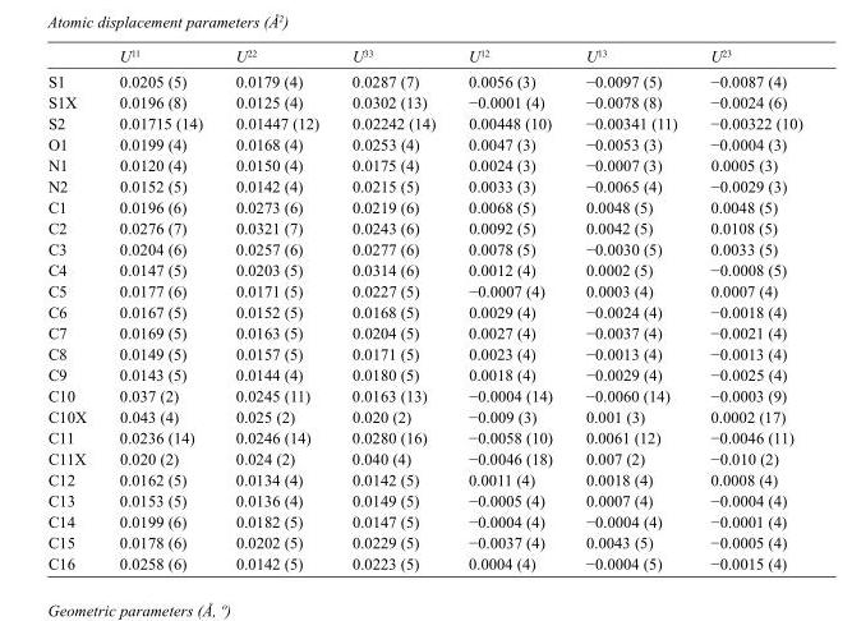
<table><thead><tr><td></td><td>U<sup>11</sup></td><td>U<sup>22</sup></td><td>U<sup>33</sup></td><td>U<sup>12</sup></td><td>U<sup>13</sup></td><td>U<sup>23</sup></td></tr></thead><tbody><tr><td>S1</td><td>0.0205 (5)</td><td>0.0179 (4)</td><td>0.0287 (7)</td><td>0.0056 (3)</td><td>−0.0097 (5)</td><td>−0.0087 (4)</td></tr><tr><td>S1X</td><td>0.0196 (8)</td><td>0.0125 (4)</td><td>0.0302 (13)</td><td>−0.0001 (4)</td><td>−0.0078 (8)</td><td>−0.0024 (6)</td></tr><tr><td>S2</td><td>0.01715 (14)</td><td>0.01447 (12)</td><td>0.02242 (14)</td><td>0.00448 (10)</td><td>−0.00341 (11)</td><td>−0.00322 (10)</td></tr><tr><td>O1</td><td>0.0199 (4)</td><td>0.0168 (4)</td><td>0.0253 (4)</td><td>0.0047 (3)</td><td>−0.0053 (3)</td><td>−0.0004 (3)</td></tr><tr><td>N1</td><td>0.0120 (4)</td><td>0.0150 (4)</td><td>0.0175 (4)</td><td>0.0024 (3)</td><td>−0.0007 (3)</td><td>0.0005 (3)</td></tr><tr><td>N2</td><td>0.0152 (5)</td><td>0.0142 (4)</td><td>0.0215 (5)</td><td>0.0033 (3)</td><td>−0.0065 (4)</td><td>−0.0029 (3)</td></tr><tr><td>C1</td><td>0.0196 (6)</td><td>0.0273 (6)</td><td>0.0219 (6)</td><td>0.0068 (5)</td><td>0.0048 (5)</td><td>0.0048 (5)</td></tr><tr><td>C2</td><td>0.0276 (7)</td><td>0.0321 (7)</td><td>0.0243 (6)</td><td>0.0092 (5)</td><td>0.0042 (5)</td><td>0.0108 (5)</td></tr><tr><td>C3</td><td>0.0204 (6)</td><td>0.0257 (6)</td><td>0.0277 (6)</td><td>0.0078 (5)</td><td>−0.0030 (5)</td><td>0.0033 (5)</td></tr><tr><td>C4</td><td>0.0147 (5)</td><td>0.0203 (5)</td><td>0.0314 (6)</td><td>0.0012 (4)</td><td>0.0002 (5)</td><td>−0.0008 (5)</td></tr><tr><td>C5</td><td>0.0177 (6)</td><td>0.0171 (5)</td><td>0.0227 (5)</td><td>−0.0007 (4)</td><td>0.0003 (4)</td><td>0.0007 (4)</td></tr><tr><td>C6</td><td>0.0167 (5)</td><td>0.0152 (5)</td><td>0.0168 (5)</td><td>0.0029 (4)</td><td>−0.0024 (4)</td><td>−0.0018 (4)</td></tr><tr><td>C7</td><td>0.0169 (5)</td><td>0.0163 (5)</td><td>0.0204 (5)</td><td>0.0027 (4)</td><td>−0.0037 (4)</td><td>−0.0021 (4)</td></tr><tr><td>C8</td><td>0.0149 (5)</td><td>0.0157 (5)</td><td>0.0171 (5)</td><td>0.0023 (4)</td><td>−0.0013 (4)</td><td>−0.0013 (4)</td></tr><tr><td>C9</td><td>0.0143 (5)</td><td>0.0144 (4)</td><td>0.0180 (5)</td><td>0.0018 (4)</td><td>−0.0029 (4)</td><td>−0.0025 (4)</td></tr><tr><td>C10</td><td>0.037 (2)</td><td>0.0245 (11)</td><td>0.0163 (13)</td><td>−0.0004 (14)</td><td>−0.0060 (14)</td><td>−0.0003 (9)</td></tr><tr><td>C10X</td><td>0.043 (4)</td><td>0.025 (2)</td><td>0.020 (2)</td><td>−0.009 (3)</td><td>0.001 (3)</td><td>0.0002 (17)</td></tr><tr><td>C11</td><td>0.0236 (14)</td><td>0.0246 (14)</td><td>0.0280 (16)</td><td>−0.0058 (10)</td><td>0.0061 (12)</td><td>−0.0046 (11)</td></tr><tr><td>C11X</td><td>0.020 (2)</td><td>0.024 (2)</td><td>0.040 (4)</td><td>−0.0046 (18)</td><td>0.007 (2)</td><td>−0.010 (2)</td></tr><tr><td>C12</td><td>0.0162 (5)</td><td>0.0134 (4)</td><td>0.0142 (5)</td><td>0.0011 (4)</td><td>0.0018 (4)</td><td>0.0008 (4)</td></tr><tr><td>C13</td><td>0.0153 (5)</td><td>0.0136 (4)</td><td>0.0149 (5)</td><td>−0.0005 (4)</td><td>0.0007 (4)</td><td>−0.0004 (4)</td></tr><tr><td>C14</td><td>0.0199 (6)</td><td>0.0182 (5)</td><td>0.0147 (5)</td><td>−0.0004 (4)</td><td>−0.0004 (4)</td><td>−0.0001 (4)</td></tr><tr><td>C15</td><td>0.0178 (6)</td><td>0.0202 (5)</td><td>0.0229 (5)</td><td>−0.0037 (4)</td><td>0.0043 (5)</td><td>−0.0005 (4)</td></tr><tr><td>C16</td><td>0.0258 (6)</td><td>0.0142 (5)</td><td>0.0223 (5)</td><td>0.0004 (4)</td><td>−0.0004 (5)</td><td>−0.0015 (4)</td></tr></tbody></table>